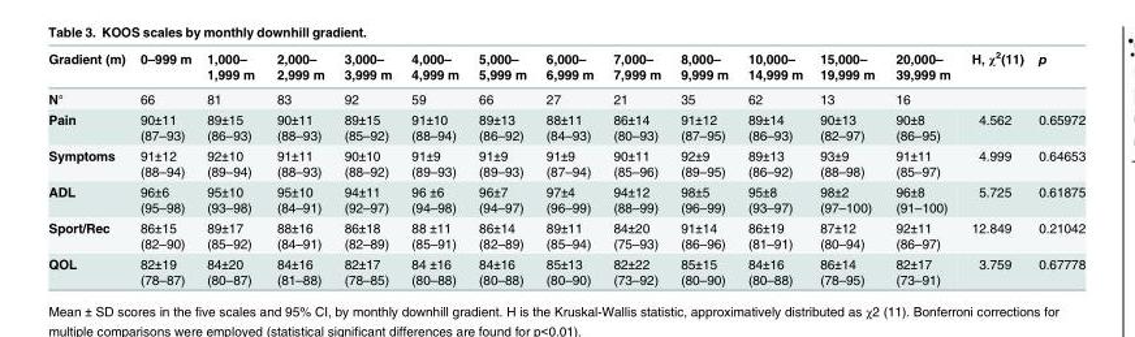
<table><thead><tr><td>Gradient (m)</td><td>0–999 m</td><td>1,000– 1,999 m</td><td>2,000– 2,999 m</td><td>3,000– 3,999 m</td><td>4,000– 4,999 m</td><td>5,000– 5,999 m</td><td>6,000– 6,999 m</td><td>7,000– 7,999 m</td><td>8,000– 9,999 m</td><td>10,000– 14,999 m</td><td>15,000– 19,999 m</td><td>20,000– 39,999 m</td><td>H, χ<sup>2</sup>(11)</td><td>p</td></tr></thead><tbody><tr><td>N°</td><td>66</td><td>81</td><td>83</td><td>92</td><td>59</td><td>66</td><td>27</td><td>21</td><td>35</td><td>62</td><td>13</td><td>16</td><td></td><td></td></tr><tr><td>Pain</td><td>90±11 (87–93)</td><td>89±15 (86–93)</td><td>90±11 (88–93)</td><td>89±15 (85–92)</td><td>91±10 (88–94)</td><td>89±13 (86–92)</td><td>88±11 (84–93)</td><td>86±14 (80–93)</td><td>91±12 (87–95)</td><td>89±14 (86–93)</td><td>90±13 (82–97)</td><td>90±8 (86–95)</td><td>4.562</td><td>0.65972</td></tr><tr><td>Symptoms</td><td>91±12 (88–94)</td><td>92±10 (89–94)</td><td>91±11 (88–93)</td><td>90±10 (88–92)</td><td>91±9 (89–93)</td><td>91±9 (89–93)</td><td>91±9 (87–94)</td><td>90±11 (85–96)</td><td>92±9 (89–95)</td><td>89±13 (86–92)</td><td>93±9 (88–98)</td><td>91±11 (85–97)</td><td>4.999</td><td>0.64653</td></tr><tr><td>ADL</td><td>96±6 (95–98)</td><td>95±10 (93–98)</td><td>95±10 (84–91)</td><td>94±11 (92–97)</td><td>96 ±6 (94–98)</td><td>96±7 (94–97)</td><td>97±4 (96–99)</td><td>94±12 (88–99)</td><td>98±5 (96–99)</td><td>95±8 (93–97)</td><td>98±2 (97–100)</td><td>96±8 (91–100)</td><td>5.725</td><td>0.61875</td></tr><tr><td>Sport/Rec</td><td>86±15 (82–90)</td><td>89±17 (85–92)</td><td>88±16 (84–91)</td><td>86±18 (82–89)</td><td>88 ±11 (85–91)</td><td>86±14 (82–89)</td><td>89±11 (85–94)</td><td>84±20 (75–93)</td><td>91±14 (86–96)</td><td>86±19 (81–91)</td><td>87±12 (80–94)</td><td>92±11 (86–97)</td><td>12.849</td><td>0.21042</td></tr><tr><td>QOL</td><td>82±19 (78–87)</td><td>84±20 (80–87)</td><td>84±16 (81–88)</td><td>82±17 (78–85)</td><td>84 ±16 (80–88)</td><td>84±16 (80–88)</td><td>85±13 (80–90)</td><td>82±22 (73–92)</td><td>85±15 (80–90)</td><td>84±16 (80–88)</td><td>86±14 (78–95)</td><td>82±17 (73–91)</td><td>3.759</td><td>0.67778</td></tr></tbody></table>